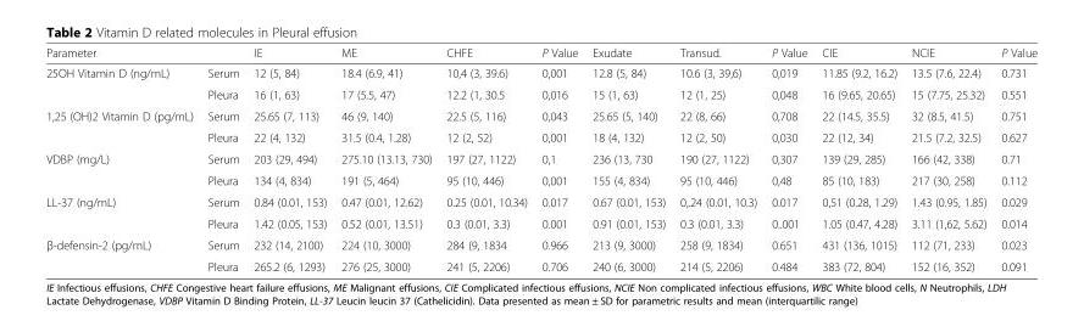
<table><thead><tr><td colspan="2">Parameter</td><td rowspan="2">IE 12 (5, 84)</td><td rowspan="2">ME 18.4 (6.9, 41)</td><td rowspan="2">CHFE 10,4 (3, 39.6)</td><td rowspan="2">P Value 0,001</td><td rowspan="2">Exudate 12.8 (5, 84)</td><td rowspan="2">Transud. 10.6 (3, 39,6)</td><td rowspan="2">P Value 0,019</td><td rowspan="2">CIE 11.85 (9.2, 16.2)</td><td rowspan="2">NCIE 13.5 (7.6, 22.4)</td><td rowspan="2">P Value 0.731</td></tr><tr><td>25OH Vitamin D (ng/mL)</td><td>Serum</td></tr></thead><tbody><tr><td></td><td>Pleura</td><td>16 (1, 63)</td><td>17 (5.5, 47)</td><td>12.2 (1, 30.5</td><td>0,016</td><td>15 (1, 63)</td><td>12 (1, 25)</td><td>0,048</td><td>16 (9.65, 20.65)</td><td>15 (7.75, 25.32)</td><td>0.551</td></tr><tr><td rowspan="2">1,25 (OH)2 Vitamin D (pg/mL)</td><td>Serum</td><td>25.65 (7, 113)</td><td>46 (9, 140)</td><td>22.5 (5, 116)</td><td>0,043</td><td>25.65 (5, 140)</td><td>22 (8, 66)</td><td>0,708</td><td>22 (14.5, 35.5)</td><td>32 (8.5, 41.5)</td><td>0.751</td></tr><tr><td>Pleura</td><td>22 (4, 132)</td><td>31.5 (0.4, 1.28)</td><td>12 (2, 52)</td><td>0,001</td><td>18 (4, 132)</td><td>12 (2, 50)</td><td>0,030</td><td>22 (12, 34)</td><td>21.5 (7.2, 32.5)</td><td>0.627</td></tr><tr><td rowspan="2">VDBP (mg/L)</td><td>Serum</td><td>203 (29, 494)</td><td>275.10 (13.13, 730)</td><td>197 (27, 1122)</td><td>0,1</td><td>236 (13, 730</td><td>190 (27, 1122)</td><td>0,307</td><td>139 (29, 285)</td><td>166 (42, 338)</td><td>0.71</td></tr><tr><td>Pleura</td><td>134 (4, 834)</td><td>191 (5, 464)</td><td>95 (10, 446)</td><td>0,001</td><td>155 (4, 834)</td><td>95 (10, 446)</td><td>0,48</td><td>85 (10, 183)</td><td>217 (30, 258)</td><td>0.112</td></tr><tr><td rowspan="2">LL-37 (ng/mL)</td><td>Serum</td><td>0.84 (0.01, 153)</td><td>0.47 (0.01, 12.62)</td><td>0.25 (0.01, 10.34)</td><td>0.017</td><td>0.67 (0.01, 153)</td><td>0,.24 (0.01, 10.3)</td><td>0.017</td><td>0,51 (0.28, 1.29)</td><td>1.43 (0.95, 1.85)</td><td>0.029</td></tr><tr><td>Pleura</td><td>1.42 (0.05, 153)</td><td>0.52 (0.01, 13.51)</td><td>0.3 (0.01, 3.3)</td><td>0.001</td><td>0.91 (0.01, 153)</td><td>0.3 (0.01, 3.3)</td><td>0..001</td><td>1.05 (0.47, 4.28)</td><td>3.11 (1,62, 5.62)</td><td>0.014</td></tr><tr><td rowspan="2">β-defensin-2 (pg/mL)</td><td>Serum</td><td>232 (14, 2100)</td><td>224 (10, 3000)</td><td>284 (9, 1834</td><td>0.966</td><td>213 (9, 3000)</td><td>258 (9, 1834)</td><td>0.651</td><td>431 (136, 1015)</td><td>112 (71, 233)</td><td>0.023</td></tr><tr><td>Pleura</td><td>265.2 (6, 1293)</td><td>276 (25, 3000)</td><td>241 (5, 2206)</td><td>0.706</td><td>240 (6, 3000)</td><td>214 (5, 2206)</td><td>0.484</td><td>383 (72, 804)</td><td>152 (16, 352)</td><td>0.091</td></tr></tbody></table>